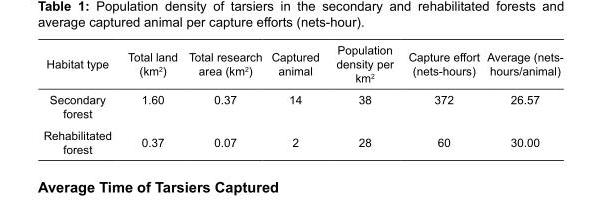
<table><thead><tr><td>Habitat type</td><td>Total land (km<sup>2</sup>)</td><td>Total research area (km<sup>2</sup>)</td><td>Captured animal</td><td>Population density per km<sup>2</sup></td><td>Capture effort (nets-hours)</td><td>Average (nets- hours/animal)</td></tr></thead><tbody><tr><td>Secondary forest</td><td>1.60</td><td>0.37</td><td>14</td><td>38</td><td>372</td><td>26.57</td></tr><tr><td>Rehabilitated forest</td><td>0.37</td><td>0.07</td><td>2</td><td>28</td><td>60</td><td>30.00</td></tr></tbody></table>